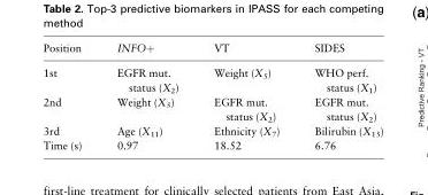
<table><thead><tr><td>Position</td><td>INFO+</td><td>VT</td><td>SIDES</td></tr></thead><tbody><tr><td>1st</td><td>EGFR mut. status (X<sub>2</sub>)</td><td>Weight (X<sub>5</sub>)</td><td>WHO perf. status (X<sub>1</sub>)</td></tr><tr><td>2nd</td><td>Weight (X<sub>5</sub>)</td><td>EGFR mut. status (X<sub>2</sub>)</td><td>EGFR mut. status (X<sub>2</sub>)</td></tr><tr><td>3rd</td><td>Age (X<sub>11</sub>)</td><td>Ethnicity (X<sub>7</sub>)</td><td>Bilirubin (X<sub>15</sub>)</td></tr><tr><td>Time (s)</td><td>0.97</td><td>18.52</td><td>6.76</td></tr></tbody></table>